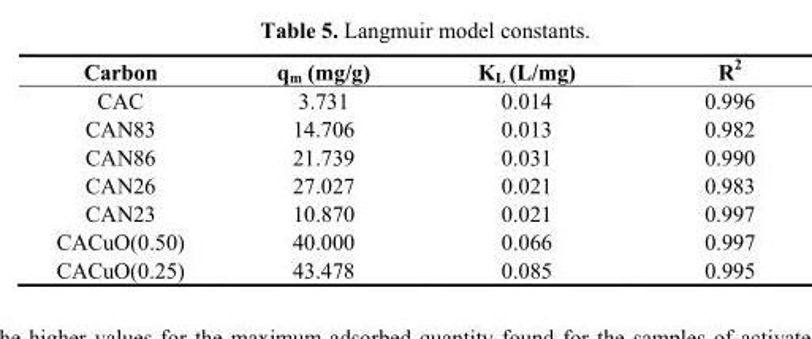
<table><thead><tr><td>Carbon</td><td>q<sub>m</sub> (mg/g)</td><td>K<sub>L</sub> (L/mg)</td><td>R<sup>2</sup></td></tr></thead><tbody><tr><td>CAC</td><td>3.731</td><td>0.014</td><td>0.996</td></tr><tr><td>CAN83</td><td>14.706</td><td>0.013</td><td>0.982</td></tr><tr><td>CAN86</td><td>21.739</td><td>0.031</td><td>0.990</td></tr><tr><td>CAN26</td><td>27.027</td><td>0.021</td><td>0.983</td></tr><tr><td>CAN23</td><td>10.870</td><td>0.021</td><td>0.997</td></tr><tr><td>CACuO(0.50)</td><td>40.000</td><td>0.066</td><td>0.997</td></tr><tr><td>CACuO(0.25)</td><td>43.478</td><td>0.085</td><td>0.995</td></tr></tbody></table>